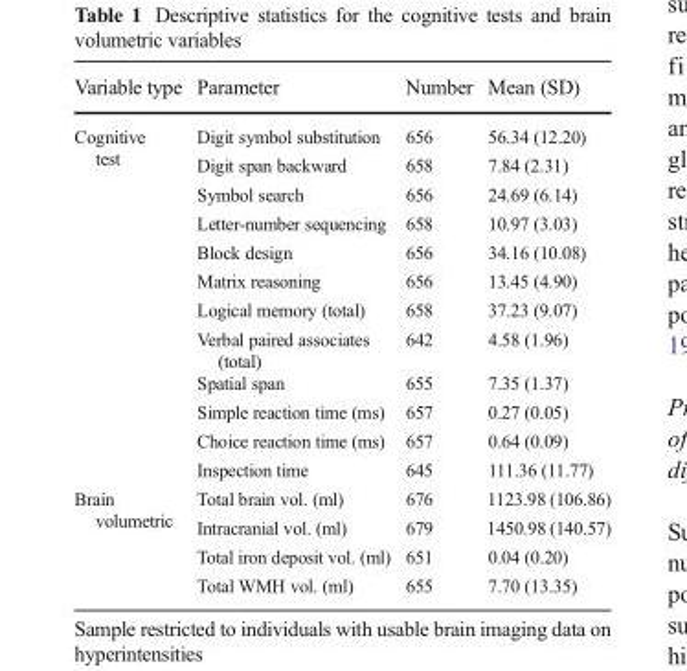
<table><thead><tr><td>Variable type</td><td>Parameter</td><td>Number</td><td>Mean (SD)</td></tr></thead><tbody><tr><td rowspan="12">Cognitive test</td><td>Digit symbol substitution</td><td>656</td><td>56.34 (12.20)</td></tr><tr><td>Digit span backward</td><td>658</td><td>7.84 (2.31)</td></tr><tr><td>Symbol search</td><td>656</td><td>24.69 (6.14)</td></tr><tr><td>Letter-number sequencing</td><td>658</td><td>10.97 (3.03)</td></tr><tr><td>Block design</td><td>656</td><td>34.16 (10.08)</td></tr><tr><td>Matrix reasoning</td><td>656</td><td>13.45 (4.90)</td></tr><tr><td>Logical memory (total)</td><td>658</td><td>37.23 (9.07)</td></tr><tr><td>Verbal paired associates (total)</td><td>642</td><td>4.58 (1.96)</td></tr><tr><td>Spatial span</td><td>655</td><td>7.35 (1.37)</td></tr><tr><td>Simple reaction time (ms)</td><td>657</td><td>0.27 (0.05)</td></tr><tr><td>Choice reaction time (ms)</td><td>657</td><td>0.64 (0.09)</td></tr><tr><td>Inspection time</td><td>645</td><td>111.36 (11.77)</td></tr><tr><td rowspan="4">Brain volumetric</td><td>Total brain vol. (ml)</td><td>676</td><td>1123.98 (106.86)</td></tr><tr><td>Intracranial vol. (ml)</td><td>679</td><td>1450.98 (140.57)</td></tr><tr><td>Total iron deposit vol. (ml)</td><td>651</td><td>0.04 (0.20)</td></tr><tr><td>Total WMH vol. (ml)</td><td>655</td><td>7.70 (13.35)</td></tr></tbody></table>